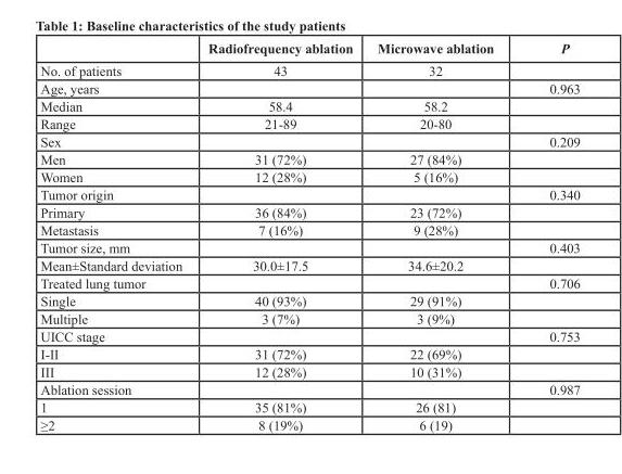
<table><thead><tr><td></td><td>Radiofrequency ablation</td><td>Microwave ablation</td><td>P</td></tr></thead><tbody><tr><td>No. of patients</td><td>43</td><td>32</td><td></td></tr><tr><td>Age, years</td><td></td><td></td><td>0.963</td></tr><tr><td>Median</td><td>58.4</td><td>58.2</td><td></td></tr><tr><td>Range</td><td>21-89</td><td>20-80</td><td></td></tr><tr><td>Sex</td><td></td><td></td><td>0.209</td></tr><tr><td>Men</td><td>31 (72%)</td><td>27 (84%)</td><td></td></tr><tr><td>Women</td><td>12 (28%)</td><td>5 (16%)</td><td></td></tr><tr><td>Tumor origin</td><td></td><td></td><td>0.340</td></tr><tr><td>Primary</td><td>36 (84%)</td><td>23 (72%)</td><td></td></tr><tr><td>Metastasis</td><td>7 (16%)</td><td>9 (28%)</td><td></td></tr><tr><td>Tumor size, mm</td><td></td><td></td><td>0.403</td></tr><tr><td>Mean±Standard deviation</td><td>30.0±17.5</td><td>34.6±20.2</td><td></td></tr><tr><td>Treated lung tumor</td><td></td><td></td><td>0.706</td></tr><tr><td>Single</td><td>40 (93%)</td><td>29 (91%)</td><td></td></tr><tr><td>Multiple</td><td>3 (7%)</td><td>3 (9%)</td><td></td></tr><tr><td>UICC stage</td><td></td><td></td><td>0.753</td></tr><tr><td>I-II</td><td>31 (72%)</td><td>22 (69%)</td><td></td></tr><tr><td>III</td><td>12 (28%)</td><td>10 (31%)</td><td></td></tr><tr><td>Ablation session</td><td></td><td></td><td>0.987</td></tr><tr><td>1</td><td>35 (81%)</td><td>26 (81)</td><td></td></tr><tr><td>≥2</td><td>8 (19%)</td><td>6 (19)</td><td></td></tr></tbody></table>